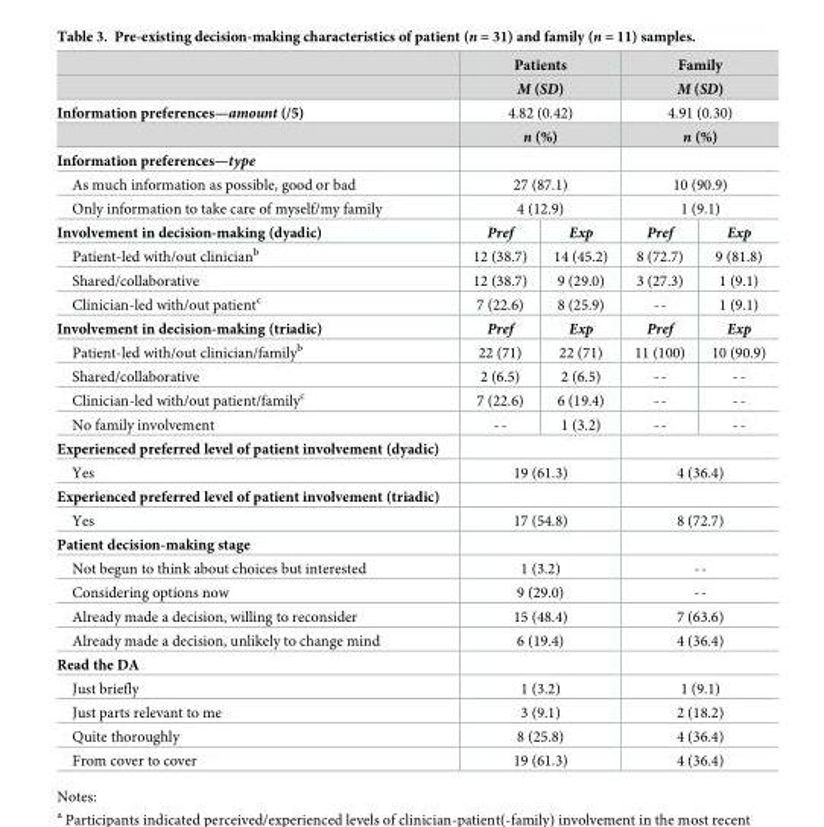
<table><thead><tr><td></td><td colspan="2">Patients</td><td colspan="2">Family</td></tr></thead><tbody><tr><td></td><td colspan="2">M (SD)</td><td colspan="2">M (SD)</td></tr><tr><td rowspan="2">Information preferences—amount (/5)</td><td colspan="2">4.82 (0.42)</td><td colspan="2">4.91 (0.30)</td></tr><tr><td colspan="2">n (%)</td><td colspan="2">n (%)</td></tr><tr><td colspan="5">Information preferences—type</td></tr><tr><td>As much information as possible, good or bad</td><td colspan="2">27 (87.1)</td><td colspan="2">10 (90.9)</td></tr><tr><td>Only information to take care of myself/my family</td><td colspan="2">4 (12.9)</td><td colspan="2">1 (9.1)</td></tr><tr><td>Involvement in decision-making (dyadic)</td><td>Pref</td><td>Exp</td><td>Pref</td><td>Exp</td></tr><tr><td>Patient-led with/out clinician<sup>b</sup></td><td>12 (38.7)</td><td>14 (45.2)</td><td>8 (72.7)</td><td>9 (81.8)</td></tr><tr><td>Shared/collaborative</td><td>12 (38.7)</td><td>9 (29.0)</td><td>3 (27.3)</td><td>1 (9.1)</td></tr><tr><td>Clinician-led with/out patient<sup>c</sup></td><td>7 (22.6)</td><td>8 (25.9)</td><td>--</td><td>1 (9.1)</td></tr><tr><td>Involvement in decision-making (triadic)</td><td>Pref</td><td>Exp</td><td>Pref</td><td>Exp</td></tr><tr><td>Patient-led with/out clinician/family<sup>b</sup></td><td>22 (71)</td><td>22 (71)</td><td>11 (100)</td><td>10 (90.9)</td></tr><tr><td>Shared/collaborative</td><td>2 (6.5)</td><td>2 (6.5)</td><td>--</td><td>--</td></tr><tr><td>Clinician-led with/out patient/family<sup>c</sup></td><td>7 (22.6)</td><td>6 (19.4)</td><td>--</td><td>--</td></tr><tr><td>No family involvement</td><td>--</td><td>1 (3.2)</td><td>--</td><td>--</td></tr><tr><td colspan="5">Experienced preferred level of patient involvement (dyadic)</td></tr><tr><td>Yes</td><td colspan="2">19 (61.3)</td><td colspan="2">4 (36.4)</td></tr><tr><td colspan="5">Experienced preferred level of patient involvement (triadic)</td></tr><tr><td>Yes</td><td colspan="2">17 (54.8)</td><td colspan="2">8 (72.7)</td></tr><tr><td colspan="5">Patient decision-making stage</td></tr><tr><td>Not begun to think about choices but interested</td><td colspan="2">1 (3.2)</td><td colspan="2">--</td></tr><tr><td>Considering options now</td><td colspan="2">9 (29.0)</td><td colspan="2">--</td></tr><tr><td>Already made a decision, willing to reconsider</td><td colspan="2">15 (48.4)</td><td colspan="2">7 (63.6)</td></tr><tr><td>Already made a decision, unlikely to change mind</td><td colspan="2">6 (19.4)</td><td colspan="2">4 (36.4)</td></tr><tr><td colspan="5">Read the DA</td></tr><tr><td>Just briefly</td><td colspan="2">1 (3.2)</td><td colspan="2">1 (9.1)</td></tr><tr><td>Just parts relevant to me</td><td colspan="2">3 (9.1)</td><td colspan="2">2 (18.2)</td></tr><tr><td>Quite thoroughly</td><td colspan="2">8 (25.8)</td><td colspan="2">4 (36.4)</td></tr><tr><td>From cover to cover</td><td colspan="2">19 (61.3)</td><td colspan="2">4 (36.4)</td></tr></tbody></table>